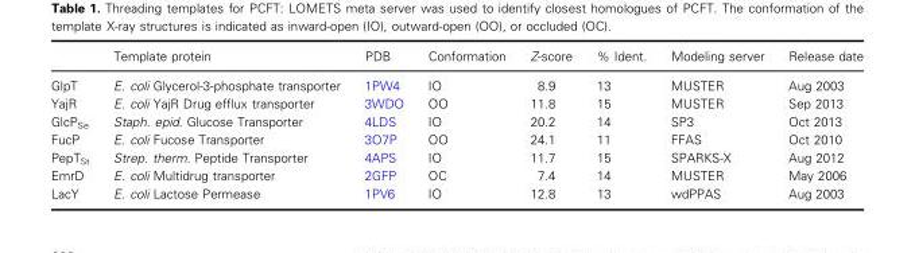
<table><thead><tr><td></td><td>Template protein</td><td>PDB</td><td>Conformation</td><td>Z-score</td><td>% Ident.</td><td>Modeling server</td><td>Release date</td></tr></thead><tbody><tr><td>GlpT</td><td>E. coli Glycerol-3-phosphate transporter</td><td>1PW4</td><td>IO</td><td>8.9</td><td>13</td><td>MUSTER</td><td>Aug 2003</td></tr><tr><td>YajR</td><td>E. coli YajR Drug efflux transporter</td><td>3WDO</td><td>OO</td><td>11.8</td><td>15</td><td>MUSTER</td><td>Sep 2013</td></tr><tr><td>GlcP<sub>Se</sub></td><td>Staph. epid. Glucose Transporter</td><td>4LDS</td><td>IO</td><td>20.2</td><td>14</td><td>SP3</td><td>Oct 2013</td></tr><tr><td>FucP</td><td>E. coli Fucose Transporter</td><td>3O7P</td><td>OO</td><td>24.1</td><td>11</td><td>FFAS</td><td>Oct 2010</td></tr><tr><td>PepT<sub>St</sub></td><td>Strep. therm. Peptide Transporter</td><td>4APS</td><td>IO</td><td>11.7</td><td>15</td><td>SPARKS-X</td><td>Aug 2012</td></tr><tr><td>EmrD</td><td>E. coli Multidrug transporter</td><td>2GFP</td><td>OC</td><td>7.4</td><td>14</td><td>MUSTER</td><td>May 2006</td></tr><tr><td>LacY</td><td>E. coli Lactose Permease</td><td>1PV6</td><td>IO</td><td>12.8</td><td>13</td><td>wdPPAS</td><td>Aug 2003</td></tr></tbody></table>